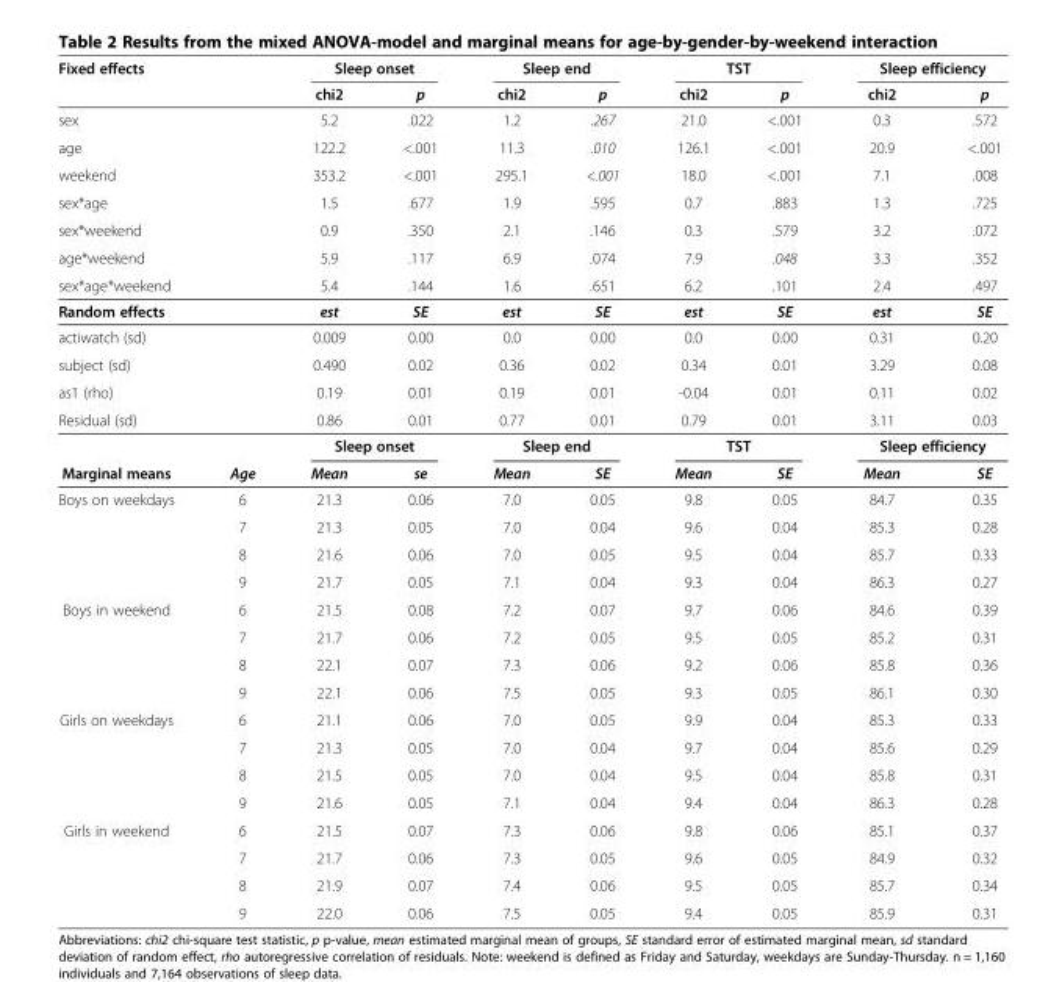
<table><thead><tr><td colspan="2">Fixed effects</td><td colspan="2">Sleep onset</td><td colspan="2">Sleep end</td><td colspan="2">TST</td><td colspan="2">Sleep efficiency</td></tr><tr><td></td><td></td><td>chi2</td><td>p</td><td>chi2</td><td>p</td><td>chi2</td><td>p</td><td>chi2</td><td>p</td></tr></thead><tbody><tr><td colspan="2">sex</td><td>5.2</td><td>.022</td><td>1.2</td><td>.267</td><td>21.0</td><td>&lt;.001</td><td>0.3</td><td>.572</td></tr><tr><td colspan="2">age</td><td>122.2</td><td>&lt;.001</td><td>11.3</td><td>.010</td><td>126.1</td><td>&lt;.001</td><td>20.9</td><td>&lt;.001</td></tr><tr><td colspan="2">weekend</td><td>353.2</td><td>&lt;.001</td><td>295.1</td><td>&lt;.001</td><td>18.0</td><td>&lt;.001</td><td>7.1</td><td>.008</td></tr><tr><td colspan="2">sex*age</td><td>1.5</td><td>.677</td><td>1.9</td><td>.595</td><td>0.7</td><td>.883</td><td>1.3</td><td>.725</td></tr><tr><td colspan="2">sex*weekend</td><td>0.9</td><td>.350</td><td>2.1</td><td>.146</td><td>0.3</td><td>.579</td><td>3.2</td><td>.072</td></tr><tr><td colspan="2">age*weekend</td><td>5.9</td><td>.117</td><td>6.9</td><td>.074</td><td>7.9</td><td>.048</td><td>3.3</td><td>.352</td></tr><tr><td colspan="2">sex*age*weekend</td><td>5.4</td><td>.144</td><td>1.6</td><td>.651</td><td>6.2</td><td>.101</td><td>2.4</td><td>.497</td></tr><tr><td colspan="2">Random effects</td><td>est</td><td>SE</td><td>est</td><td>SE</td><td>est</td><td>SE</td><td>est</td><td>SE</td></tr><tr><td colspan="2">actiwatch (sd)</td><td>0.009</td><td>0.00</td><td>0.0</td><td>0.00</td><td>0.0</td><td>0.00</td><td>0.31</td><td>0.20</td></tr><tr><td colspan="2">subject (sd)</td><td>0.490</td><td>0.02</td><td>0.36</td><td>0.02</td><td>0.34</td><td>0.01</td><td>3.29</td><td>0.08</td></tr><tr><td colspan="2">as1 (rho)</td><td>0.19</td><td>0.01</td><td>0.19</td><td>0.01</td><td>-0.04</td><td>0.01</td><td>0.11</td><td>0.02</td></tr><tr><td rowspan="2" colspan="2">Residual (sd)</td><td>0.86</td><td>0.01</td><td>0.77</td><td>0.01</td><td>0.79</td><td>0.01</td><td>3.11</td><td>0.03</td></tr><tr><td colspan="2">Sleep onset</td><td colspan="2">Sleep end</td><td colspan="2">TST</td><td colspan="2">Sleep efficiency</td></tr><tr><td>Marginal means</td><td>Age</td><td>Mean</td><td>se</td><td>Mean</td><td>SE</td><td>Mean</td><td>SE</td><td>Mean</td><td>SE</td></tr><tr><td rowspan="4">Boys on weekdays</td><td>6</td><td>21.3</td><td>0.06</td><td>7.0</td><td>0.05</td><td>9.8</td><td>0.05</td><td>84.7</td><td>0.35</td></tr><tr><td>7</td><td>21.3</td><td>0.05</td><td>7.0</td><td>0.04</td><td>9.6</td><td>0.04</td><td>85.3</td><td>0.28</td></tr><tr><td>8</td><td>21.6</td><td>0.06</td><td>7.0</td><td>0.05</td><td>9.5</td><td>0.04</td><td>85.7</td><td>0.33</td></tr><tr><td>9</td><td>21.7</td><td>0.05</td><td>7.1</td><td>0.04</td><td>9.3</td><td>0.04</td><td>86.3</td><td>0.27</td></tr><tr><td rowspan="4">Boys in weekend</td><td>6</td><td>21.5</td><td>0.08</td><td>7.2</td><td>0.07</td><td>9.7</td><td>0.06</td><td>84.6</td><td>0.39</td></tr><tr><td>7</td><td>21.7</td><td>0.06</td><td>7.2</td><td>0.05</td><td>9.5</td><td>0.05</td><td>85.2</td><td>0.31</td></tr><tr><td>8</td><td>22.1</td><td>0.07</td><td>7.3</td><td>0.06</td><td>9.2</td><td>0.06</td><td>85.8</td><td>0.36</td></tr><tr><td>9</td><td>22.1</td><td>0.06</td><td>7.5</td><td>0.05</td><td>9.3</td><td>0.05</td><td>86.1</td><td>0.30</td></tr><tr><td rowspan="4">Girls on weekdays</td><td>6</td><td>21.1</td><td>0.06</td><td>7.0</td><td>0.05</td><td>9.9</td><td>0.04</td><td>85.3</td><td>0.33</td></tr><tr><td>7</td><td>21.3</td><td>0.05</td><td>7.0</td><td>0.04</td><td>9.7</td><td>0.04</td><td>85.6</td><td>0.29</td></tr><tr><td>8</td><td>21.5</td><td>0.05</td><td>7.0</td><td>0.04</td><td>9.5</td><td>0.04</td><td>85.8</td><td>0.31</td></tr><tr><td>9</td><td>21.6</td><td>0.05</td><td>7.1</td><td>0.04</td><td>9.4</td><td>0.04</td><td>86.3</td><td>0.28</td></tr><tr><td rowspan="4">Girls in weekend</td><td>6</td><td>21.5</td><td>0.07</td><td>7.3</td><td>0.06</td><td>9.8</td><td>0.06</td><td>85.1</td><td>0.37</td></tr><tr><td>7</td><td>21.7</td><td>0.06</td><td>7.3</td><td>0.05</td><td>9.6</td><td>0.05</td><td>84.9</td><td>0.32</td></tr><tr><td>8</td><td>21.9</td><td>0.07</td><td>7.4</td><td>0.06</td><td>9.5</td><td>0.05</td><td>85.7</td><td>0.34</td></tr><tr><td>9</td><td>22.0</td><td>0.06</td><td>7.5</td><td>0.05</td><td>9.4</td><td>0.05</td><td>85.9</td><td>0.31</td></tr></tbody></table>